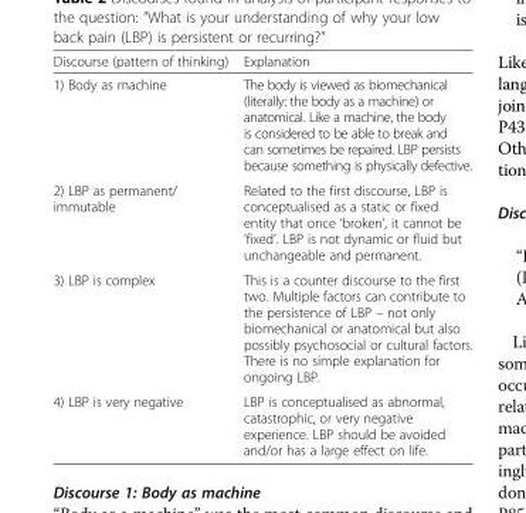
<table><thead><tr><td>Discourse (pattern of thinking)</td><td>Explanation</td></tr></thead><tbody><tr><td>1) Body as machine</td><td>The body is viewed as biomechanical (literally: the body as a machine) or anatomical. Like a machine, the body is considered to be able to break and can sometimes be repaired. LBP persists because something is physically defective.</td></tr><tr><td>2) LBP as permanent/ immutable</td><td>Related to the first discourse, LBP is conceptualised as a static or fixed entity that once ‘broken’, it cannot be ‘fixed’. LBP is not dynamic or fluid but unchangeable and permanent.</td></tr><tr><td>3) LBP is complex</td><td>This is a counter discourse to the first two. Multiple factors can contribute to the persistence of LBP – not only biomechanical or anatomical but also possibly psychosocial or cultural factors. There is no simple explanation for ongoing LBP.</td></tr><tr><td>4) LBP is very negative</td><td>LBP is conceptualised as abnormal, catastrophic, or very negative experience. LBP should be avoided and/or has a large effect on life.</td></tr></tbody></table>